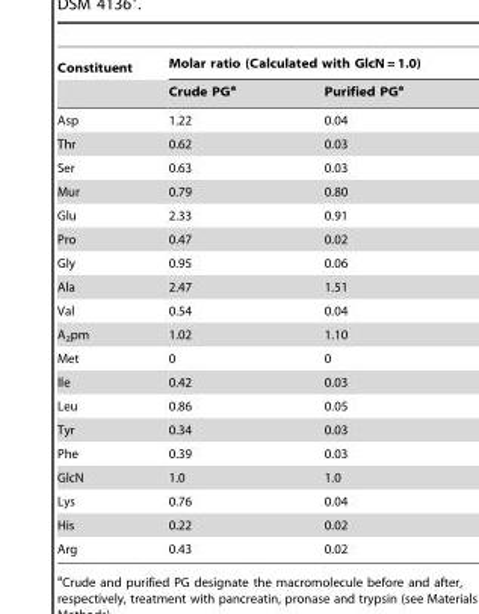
<table><thead><tr><td rowspan="2">Constituent</td><td colspan="2">Molar ratio (Calculated with GlcN = 1.0)</td></tr><tr><td>Crude PG<sup>a</sup></td><td>Purified PG<sup>a</sup></td></tr></thead><tbody><tr><td>Asp</td><td>1.22</td><td>0.04</td></tr><tr><td>Thr</td><td>0.62</td><td>0.03</td></tr><tr><td>Ser</td><td>0.63</td><td>0.03</td></tr><tr><td>Mur</td><td>0.79</td><td>0.80</td></tr><tr><td>Glu</td><td>2.33</td><td>0.91</td></tr><tr><td>Pro</td><td>0.47</td><td>0.02</td></tr><tr><td>Gly</td><td>0.95</td><td>0.06</td></tr><tr><td>Ala</td><td>2.47</td><td>1.51</td></tr><tr><td>Val</td><td>0.54</td><td>0.04</td></tr><tr><td>A<sub>2</sub>pm</td><td>1.02</td><td>1.10</td></tr><tr><td>Met</td><td>0</td><td>0</td></tr><tr><td>Ile</td><td>0.42</td><td>0.03</td></tr><tr><td>Leu</td><td>0.86</td><td>0.05</td></tr><tr><td>Tyr</td><td>0.34</td><td>0.03</td></tr><tr><td>Phe</td><td>0.39</td><td>0.03</td></tr><tr><td>GlcN</td><td>1.0</td><td>1.0</td></tr><tr><td>Lys</td><td>0.76</td><td>0.04</td></tr><tr><td>His</td><td>0.22</td><td>0.02</td></tr><tr><td>Arg</td><td>0.43</td><td>0.02</td></tr></tbody></table>